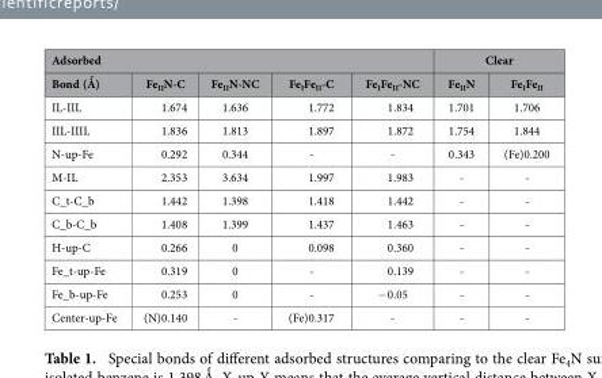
<table><thead><tr><td colspan="5">Adsorbed</td><td colspan="2">Clear</td></tr><tr><td>Bond (Ǻ)</td><td>Fe<sub>II</sub>N-C</td><td>Fe<sub>II</sub>N-NC</td><td>Fe<sub>I</sub>Fe<sub>II</sub>-C</td><td>Fe<sub>I</sub>Fe<sub>II</sub>-NC</td><td>Fe<sub>II</sub>N</td><td>Fe<sub>I</sub>Fe<sub>II</sub></td></tr></thead><tbody><tr><td>IL-IIL</td><td>1.674</td><td>1.636</td><td>1.772</td><td>1.834</td><td>1.701</td><td>1.706</td></tr><tr><td>IIL-IIIL</td><td>1.836</td><td>1.813</td><td>1.897</td><td>1.872</td><td>1.754</td><td>1.844</td></tr><tr><td>N-up-Fe</td><td>0.292</td><td>0.344</td><td>-</td><td>-</td><td>0.343</td><td>(Fe)0.200</td></tr><tr><td>M-IL</td><td>2.353</td><td>3.634</td><td>1.997</td><td>1.983</td><td>-</td><td>-</td></tr><tr><td>C_t-C_b</td><td>1.442</td><td>1.398</td><td>1.418</td><td>1.442</td><td>-</td><td>-</td></tr><tr><td>C_b-C_b</td><td>1.408</td><td>1.399</td><td>1.437</td><td>1.463</td><td>-</td><td>-</td></tr><tr><td>H-up-C</td><td>0.266</td><td>0</td><td>0.098</td><td>0.360</td><td>-</td><td>-</td></tr><tr><td>Fe_t-up-Fe</td><td>0.319</td><td>0</td><td>-</td><td>0.139</td><td>-</td><td>-</td></tr><tr><td>Fe_b-up-Fe</td><td>0.253</td><td>0</td><td>-</td><td>− 0.05</td><td>-</td><td>-</td></tr><tr><td>Center-up-Fe</td><td>(N)0.140</td><td>-</td><td>(Fe)0.317</td><td>-</td><td>-</td><td>-</td></tr></tbody></table>